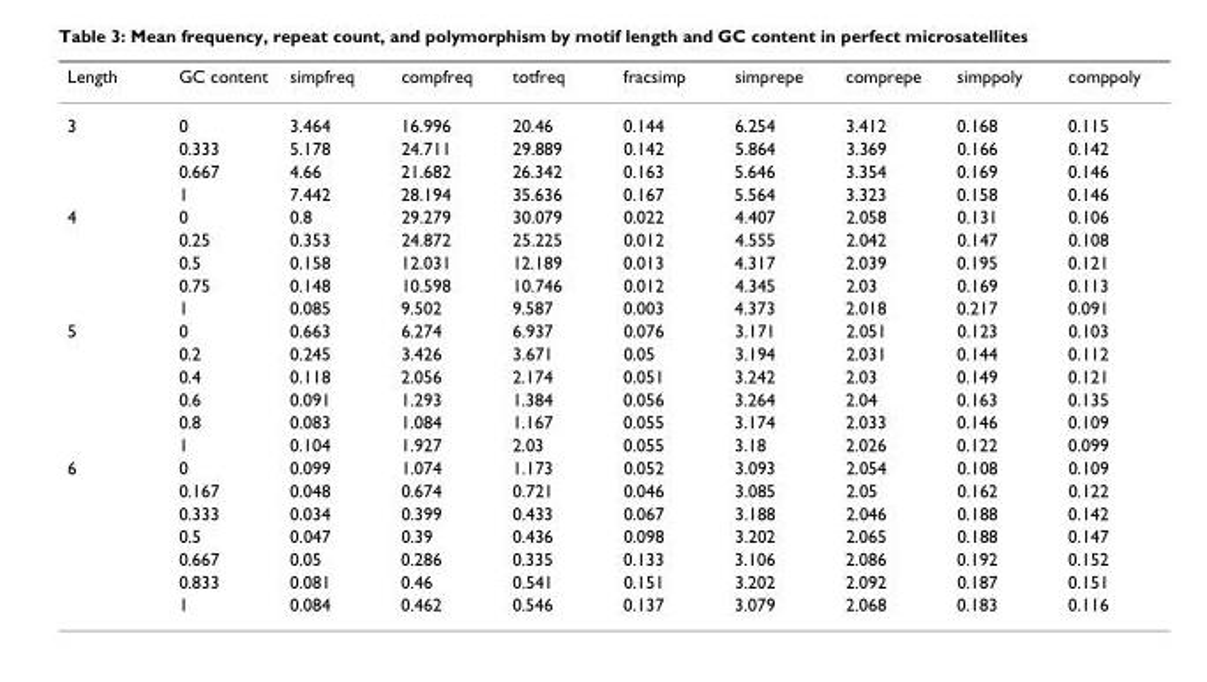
<table><thead><tr><td>Length</td><td>GC content</td><td>simpfreq</td><td>compfreq</td><td>totfreq</td><td>fracsimp</td><td>simprepe</td><td>comprepe</td><td>simppoly</td><td>comppoly</td></tr></thead><tbody><tr><td rowspan="4">3</td><td>0</td><td>3.464</td><td>16.996</td><td>20.46</td><td>0.144</td><td>6.254</td><td>3.412</td><td>0.168</td><td>0.115</td></tr><tr><td>0.333</td><td>5.178</td><td>24.711</td><td>29.889</td><td>0.142</td><td>5.864</td><td>3.369</td><td>0.166</td><td>0.142</td></tr><tr><td>0.667</td><td>4.66</td><td>21.682</td><td>26.342</td><td>0.163</td><td>5.646</td><td>3.354</td><td>0.169</td><td>0.146</td></tr><tr><td>1</td><td>7.442</td><td>28.194</td><td>35.636</td><td>0.167</td><td>5.564</td><td>3.323</td><td>0.158</td><td>0.146</td></tr><tr><td rowspan="5">4</td><td>0</td><td>0.8</td><td>29.279</td><td>30.079</td><td>0.022</td><td>4.407</td><td>2.058</td><td>0.131</td><td>0.106</td></tr><tr><td>0.25</td><td>0.353</td><td>24.872</td><td>25.225</td><td>0.012</td><td>4.555</td><td>2.042</td><td>0.147</td><td>0.108</td></tr><tr><td>0.5</td><td>0.158</td><td>12.031</td><td>12.189</td><td>0.013</td><td>4.317</td><td>2.039</td><td>0.195</td><td>0.121</td></tr><tr><td>0.75</td><td>0.148</td><td>10.598</td><td>10.746</td><td>0.012</td><td>4.345</td><td>2.03</td><td>0.169</td><td>0.113</td></tr><tr><td>1</td><td>0.085</td><td>9.502</td><td>9.587</td><td>0.003</td><td>4.373</td><td>2.018</td><td>0.217</td><td>0.091</td></tr><tr><td rowspan="6">5</td><td>0</td><td>0.663</td><td>6.274</td><td>6.937</td><td>0.076</td><td>3.171</td><td>2.051</td><td>0.123</td><td>0.103</td></tr><tr><td>0.2</td><td>0.245</td><td>3.426</td><td>3.671</td><td>0.05</td><td>3.194</td><td>2.031</td><td>0.144</td><td>0.112</td></tr><tr><td>0.4</td><td>0.118</td><td>2.056</td><td>2.174</td><td>0.051</td><td>3.242</td><td>2.03</td><td>0.149</td><td>0.121</td></tr><tr><td>0.6</td><td>0.091</td><td>1.293</td><td>1.384</td><td>0.056</td><td>3.264</td><td>2.04</td><td>0.163</td><td>0.135</td></tr><tr><td>0.8</td><td>0.083</td><td>1.084</td><td>1.167</td><td>0.055</td><td>3.174</td><td>2.033</td><td>0.146</td><td>0.109</td></tr><tr><td>1</td><td>0.104</td><td>1.927</td><td>2.03</td><td>0.055</td><td>3.18</td><td>2.026</td><td>0.122</td><td>0.099</td></tr><tr><td rowspan="7">6</td><td>0</td><td>0.099</td><td>1.074</td><td>1.173</td><td>0.052</td><td>3.093</td><td>2.054</td><td>0.108</td><td>0.109</td></tr><tr><td>0.167</td><td>0.048</td><td>0.674</td><td>0.721</td><td>0.046</td><td>3.085</td><td>2.05</td><td>0.162</td><td>0.122</td></tr><tr><td>0.333</td><td>0.034</td><td>0.399</td><td>0.433</td><td>0.067</td><td>3.188</td><td>2.046</td><td>0.188</td><td>0.142</td></tr><tr><td>0.5</td><td>0.047</td><td>0.39</td><td>0.436</td><td>0.098</td><td>3.202</td><td>2.065</td><td>0.188</td><td>0.147</td></tr><tr><td>0.667</td><td>0.05</td><td>0.286</td><td>0.335</td><td>0.133</td><td>3.106</td><td>2.086</td><td>0.192</td><td>0.152</td></tr><tr><td>0.833</td><td>0.081</td><td>0.46</td><td>0.541</td><td>0.151</td><td>3.202</td><td>2.092</td><td>0.187</td><td>0.151</td></tr><tr><td>1</td><td>0.084</td><td>0.462</td><td>0.546</td><td>0.137</td><td>3.079</td><td>2.068</td><td>0.183</td><td>0.116</td></tr></tbody></table>